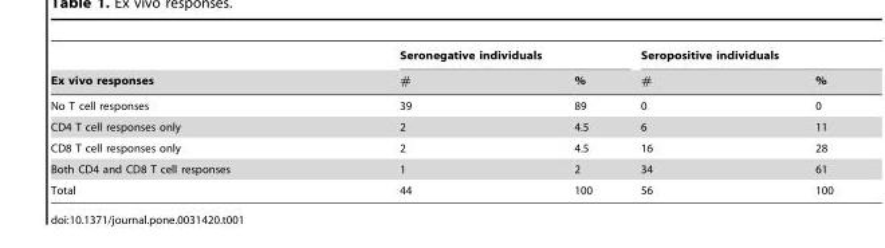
<table><thead><tr><td rowspan="2">Ex vivo responses</td><td colspan="2">Seronegative individuals</td><td colspan="2">Seropositive individuals</td></tr><tr><td>#</td><td>%</td><td>#</td><td>%</td></tr></thead><tbody><tr><td>No T cell responses</td><td>39</td><td>89</td><td>0</td><td>0</td></tr><tr><td>CD4 T cell responses only</td><td>2</td><td>4.5</td><td>6</td><td>11</td></tr><tr><td>CD8 T cell responses only</td><td>2</td><td>4.5</td><td>16</td><td>28</td></tr><tr><td>Both CD4 and CD8 T cell responses</td><td>1</td><td>2</td><td>34</td><td>61</td></tr><tr><td>Total</td><td>44</td><td>100</td><td>56</td><td>100</td></tr></tbody></table>